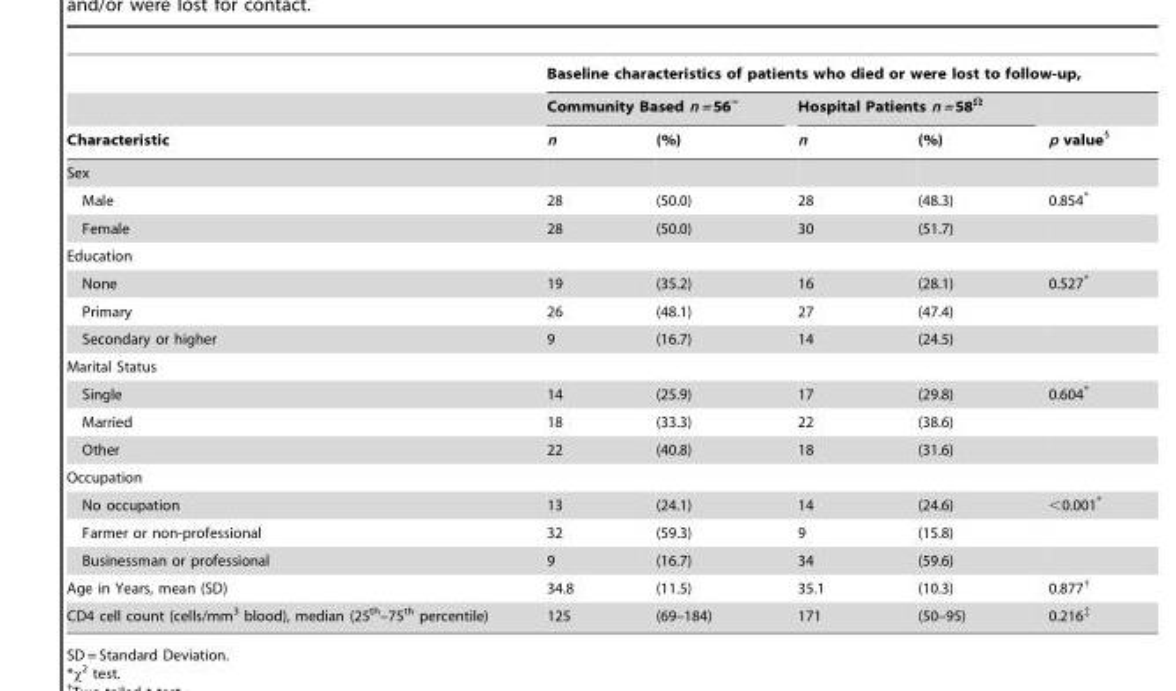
<table><thead><tr><td rowspan="3">Characteristic</td><td colspan="5">Baseline characteristics of patients who died or were lost to follow-up,</td></tr><tr><td colspan="2">Community Based n = 56‘</td><td colspan="2">Hospital Patients n = 58<sup>Ω</sup></td><td rowspan="2">p value<sup>§</sup></td></tr><tr><td>n</td><td>(%)</td><td>n</td><td>(%)</td></tr></thead><tbody><tr><td colspan="6">Sex</td></tr><tr><td>Male</td><td>28</td><td>(50.0)</td><td>28</td><td>(48.3)</td><td>0.854*</td></tr><tr><td>Female</td><td>28</td><td>(50.0)</td><td>30</td><td>(51.7)</td><td></td></tr><tr><td colspan="6">Education</td></tr><tr><td>None</td><td>19</td><td>(35.2)</td><td>16</td><td>(28.1)</td><td>0.527*</td></tr><tr><td>Primary</td><td>26</td><td>(48.1)</td><td>27</td><td>(47.4)</td><td></td></tr><tr><td>Secondary or higher</td><td>9</td><td>(16.7)</td><td>14</td><td>(24.5)</td><td></td></tr><tr><td colspan="6">Marital Status</td></tr><tr><td>Single</td><td>14</td><td>(25.9)</td><td>17</td><td>(29.8)</td><td>0.604*</td></tr><tr><td>Married</td><td>18</td><td>(33.3)</td><td>22</td><td>(38.6)</td><td></td></tr><tr><td>Other</td><td>22</td><td>(40.8)</td><td>18</td><td>(31.6)</td><td></td></tr><tr><td colspan="6">Occupation</td></tr><tr><td>No occupation</td><td>13</td><td>(24.1)</td><td>14</td><td>(24.6)</td><td>&lt;0.001*</td></tr><tr><td>Farmer or non-professional</td><td>32</td><td>(59.3)</td><td>9</td><td>(15.8)</td><td></td></tr><tr><td>Businessman or professional</td><td>9</td><td>(16.7)</td><td>34</td><td>(59.6)</td><td></td></tr><tr><td>Age in Years, mean (SD)</td><td>34.8</td><td>(11.5)</td><td>35.1</td><td>(10.3)</td><td>0.877†</td></tr><tr><td>CD4 cell count (cells/mm<sup>3</sup> blood), median (25<sup>th</sup>–75<sup>th</sup> percentile)</td><td>125</td><td>(69–184)</td><td>171</td><td>(50–95)</td><td>0.216‡</td></tr></tbody></table>